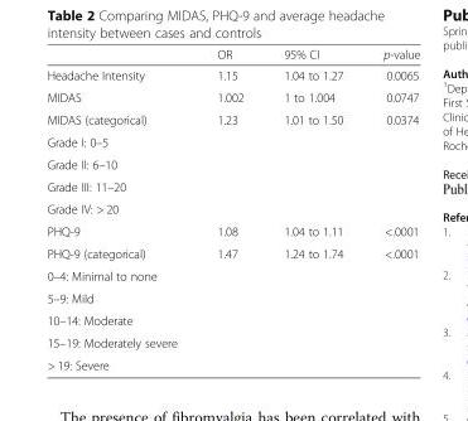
<table><thead><tr><td></td><td>OR</td><td>95% CI</td><td>p-value</td></tr></thead><tbody><tr><td>Headache Intensity</td><td>1.15</td><td>1.04 to 1.27</td><td>0.0065</td></tr><tr><td>MIDAS</td><td>1.002</td><td>1 to 1.004</td><td>0.0747</td></tr><tr><td>MIDAS (categorical)</td><td rowspan="5">1.23</td><td rowspan="5">1.01 to 1.50</td><td rowspan="5">0.0374</td></tr><tr><td>Grade I: 0–5</td></tr><tr><td>Grade II: 6–10</td></tr><tr><td>Grade III: 11–20</td></tr><tr><td>Grade IV: &gt; 20</td></tr><tr><td>PHQ-9</td><td>1.08</td><td>1.04 to 1.11</td><td>&lt;.0001</td></tr><tr><td>PHQ-9 (categorical)</td><td rowspan="6">1.47</td><td rowspan="6">1.24 to 1.74</td><td rowspan="6">&lt;.0001</td></tr><tr><td>0–4: Minimal to none</td></tr><tr><td>5–9: Mild</td></tr><tr><td>10–14: Moderate</td></tr><tr><td>15–19: Moderately severe</td></tr><tr><td>&gt; 19: Severe</td></tr></tbody></table>